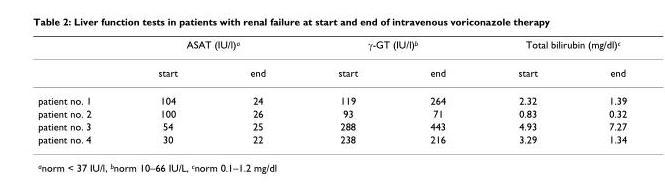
<table><thead><tr><td rowspan="2"></td><td colspan="2">ASAT (IU/l)<sup>a</sup></td><td colspan="2">γ-GT (IU/l)<sup>b</sup></td><td colspan="2">Total bilirubin (mg/dl)<sup>c</sup></td></tr><tr><td>start</td><td>end</td><td>start</td><td>end</td><td>start</td><td>end</td></tr></thead><tbody><tr><td>patient no. 1</td><td>104</td><td>24</td><td>119</td><td>264</td><td>2.32</td><td>1.39</td></tr><tr><td>patient no. 2</td><td>100</td><td>26</td><td>93</td><td>71</td><td>0.83</td><td>0.32</td></tr><tr><td>patient no. 3</td><td>54</td><td>25</td><td>288</td><td>443</td><td>4.93</td><td>7.27</td></tr><tr><td>patient no. 4</td><td>30</td><td>22</td><td>238</td><td>216</td><td>3.29</td><td>1.34</td></tr></tbody></table>